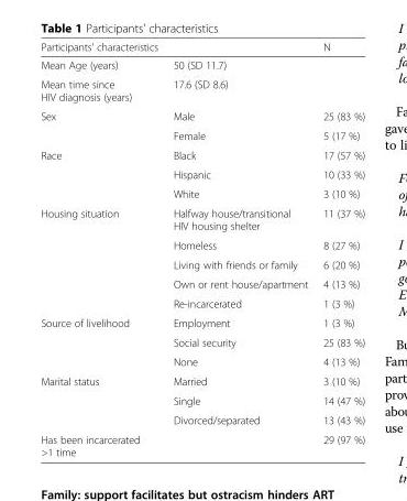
<table><thead><tr><td>Participants’ characteristics</td><td></td><td>N</td></tr></thead><tbody><tr><td>Mean Age (years)</td><td>50 (SD 11.7)</td><td></td></tr><tr><td>Mean time since HIV diagnosis (years)</td><td>17.6 (SD 8.6)</td><td></td></tr><tr><td rowspan="2">Sex</td><td>Male</td><td>25 (83 %)</td></tr><tr><td>Female</td><td>5 (17 %)</td></tr><tr><td rowspan="3">Race</td><td>Black</td><td>17 (57 %)</td></tr><tr><td>Hispanic</td><td>10 (33 %)</td></tr><tr><td>White</td><td>3 (10 %)</td></tr><tr><td rowspan="5">Housing situation</td><td>Halfway house/transitional HIV housing shelter</td><td>11 (37 %)</td></tr><tr><td>Homeless</td><td>8 (27 %)</td></tr><tr><td>Living with friends or family</td><td>6 (20 %)</td></tr><tr><td>Own or rent house/apartment</td><td>4 (13 %)</td></tr><tr><td>Re-incarcerated</td><td>1 (3 %)</td></tr><tr><td rowspan="3">Source of livelihood</td><td>Employment</td><td>1 (3 %)</td></tr><tr><td>Social security</td><td>25 (83 %)</td></tr><tr><td>None</td><td>4 (13 %)</td></tr><tr><td rowspan="3">Marital status</td><td>Married</td><td>3 (10 %)</td></tr><tr><td>Single</td><td>14 (47 %)</td></tr><tr><td>Divorced/separated</td><td>13 (43 %)</td></tr><tr><td>Has been incarcerated &gt;1 time</td><td></td><td>29 (97 %)</td></tr></tbody></table>